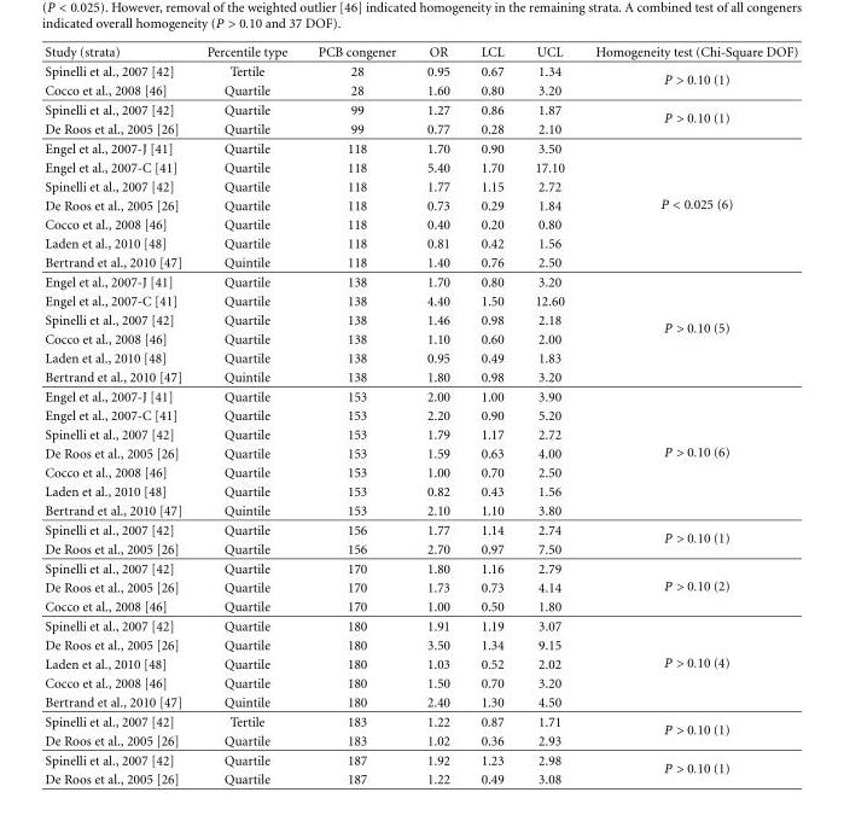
<table><thead><tr><td>Study (strata)</td><td>Percentile type</td><td>PCB congener</td><td>OR</td><td>LCL</td><td>UCL</td><td>Homogeneity test (Chi-Square DOF)</td></tr></thead><tbody><tr><td>Spinelli et al., 2007 [42]</td><td>Tertile</td><td>28</td><td>0.95</td><td>0.67</td><td>1.34</td><td rowspan="2">P &gt; 0.10 (1)</td></tr><tr><td>Cocco et al., 2008 [46]</td><td>Quartile</td><td>28</td><td>1.60</td><td>0.80</td><td>3.20</td></tr><tr><td>Spinelli et al., 2007 [42]</td><td>Quartile</td><td>99</td><td>1.27</td><td>0.86</td><td>1.87</td><td rowspan="2">P &gt; 0.10 (1)</td></tr><tr><td>De Roos et al., 2005 [26]</td><td>Quartile</td><td>99</td><td>0.77</td><td>0.28</td><td>2.10</td></tr><tr><td>Engel et al., 2007-J [41]</td><td>Quartile</td><td>118</td><td>1.70</td><td>0.90</td><td>3.50</td><td rowspan="7">P &lt; 0.025 (6)</td></tr><tr><td>Engel et al., 2007-C [41]</td><td>Quartile</td><td>118</td><td>5.40</td><td>1.70</td><td>17.10</td></tr><tr><td>Spinelli et al., 2007 [42]</td><td>Quartile</td><td>118</td><td>1.77</td><td>1.15</td><td>2.72</td></tr><tr><td>De Roos et al., 2005 [26]</td><td>Quartile</td><td>118</td><td>0.73</td><td>0.29</td><td>1.84</td></tr><tr><td>Cocco et al., 2008 [46]</td><td>Quartile</td><td>118</td><td>0.40</td><td>0.20</td><td>0.80</td></tr><tr><td>Laden et al., 2010 [48]</td><td>Quartile</td><td>118</td><td>0.81</td><td>0.42</td><td>1.56</td></tr><tr><td>Bertrand et al., 2010 [47]</td><td>Quintile</td><td>118</td><td>1.40</td><td>0.76</td><td>2.50</td></tr><tr><td>Engel et al., 2007-J [41]</td><td>Quartile</td><td>138</td><td>1.70</td><td>0.80</td><td>3.20</td><td rowspan="6">P &gt; 0.10 (5)</td></tr><tr><td>Engel et al., 2007-C [41]</td><td>Quartile</td><td>138</td><td>4.40</td><td>1.50</td><td>12.60</td></tr><tr><td>Spinelli et al., 2007 [42]</td><td>Quartile</td><td>138</td><td>1.46</td><td>0.98</td><td>2.18</td></tr><tr><td>Cocco et al., 2008 [46]</td><td>Quartile</td><td>138</td><td>1.10</td><td>0.60</td><td>2.00</td></tr><tr><td>Laden et al., 2010 [48]</td><td>Quartile</td><td>138</td><td>0.95</td><td>0.49</td><td>1.83</td></tr><tr><td>Bertrand et al., 2010 [47]</td><td>Quintile</td><td>138</td><td>1.80</td><td>0.98</td><td>3.20</td></tr><tr><td>Engel et al., 2007-J [41]</td><td>Quartile</td><td>153</td><td>2.00</td><td>1.00</td><td>3.90</td><td rowspan="7">P &gt; 0.10 (6)</td></tr><tr><td>Engel et al., 2007-C [41]</td><td>Quartile</td><td>153</td><td>2.20</td><td>0.90</td><td>5.20</td></tr><tr><td>Spinelli et al., 2007 [42]</td><td>Quartile</td><td>153</td><td>1.79</td><td>1.17</td><td>2.72</td></tr><tr><td>De Roos et al., 2005 [26]</td><td>Quartile</td><td>153</td><td>1.59</td><td>0.63</td><td>4.00</td></tr><tr><td>Cocco et al., 2008 [46]</td><td>Quartile</td><td>153</td><td>1.00</td><td>0.70</td><td>2.50</td></tr><tr><td>Laden et al., 2010 [48]</td><td>Quartile</td><td>153</td><td>0.82</td><td>0.43</td><td>1.56</td></tr><tr><td>Bertrand et al., 2010 [47]</td><td>Quintile</td><td>153</td><td>2.10</td><td>1.10</td><td>3.80</td></tr><tr><td>Spinelli et al., 2007 [42]</td><td>Quartile</td><td>156</td><td>1.77</td><td>1.14</td><td>2.74</td><td rowspan="2">P &gt; 0.10 (1)</td></tr><tr><td>De Roos et al., 2005 [26]</td><td>Quartile</td><td>156</td><td>2.70</td><td>0.97</td><td>7.50</td></tr><tr><td>Spinelli et al., 2007 [42]</td><td>Quartile</td><td>170</td><td>1.80</td><td>1.16</td><td>2.79</td><td rowspan="3">P &gt; 0.10 (2)</td></tr><tr><td>De Roos et al., 2005 [26]</td><td>Quartile</td><td>170</td><td>1.73</td><td>0.73</td><td>4.14</td></tr><tr><td>Cocco et al., 2008 [46]</td><td>Quartile</td><td>170</td><td>1.00</td><td>0.50</td><td>1.80</td></tr><tr><td>Spinelli et al., 2007 [42]</td><td>Quartile</td><td>180</td><td>1.91</td><td>1.19</td><td>3.07</td><td rowspan="5">P &gt; 0.10 (4)</td></tr><tr><td>De Roos et al., 2005 [26]</td><td>Quartile</td><td>180</td><td>3.50</td><td>1.34</td><td>9.15</td></tr><tr><td>Laden et al., 2010 [48]</td><td>Quartile</td><td>180</td><td>1.03</td><td>0.52</td><td>2.02</td></tr><tr><td>Cocco et al., 2008 [46]</td><td>Quartile</td><td>180</td><td>1.50</td><td>0.70</td><td>3.20</td></tr><tr><td>Bertrand et al., 2010 [47]</td><td>Quintile</td><td>180</td><td>2.40</td><td>1.30</td><td>4.50</td></tr><tr><td>Spinelli et al., 2007 [42]</td><td>Tertile</td><td>183</td><td>1.22</td><td>0.87</td><td>1.71</td><td rowspan="2">P &gt; 0.10 (1)</td></tr><tr><td>De Roos et al., 2005 [26]</td><td>Quartile</td><td>183</td><td>1.02</td><td>0.36</td><td>2.93</td></tr><tr><td>Spinelli et al., 2007 [42]</td><td>Quartile</td><td>187</td><td>1.92</td><td>1.23</td><td>2.98</td><td rowspan="2">P &gt; 0.10 (1)</td></tr><tr><td>De Roos et al., 2005 [26]</td><td>Quartile</td><td>187</td><td>1.22</td><td>0.49</td><td>3.08</td></tr></tbody></table>